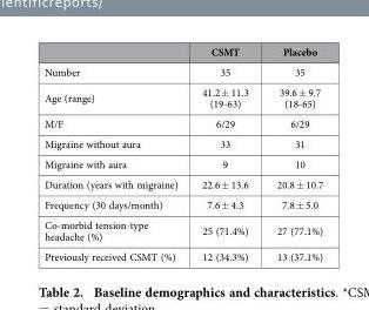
<table><thead><tr><td></td><td>CSMT</td><td>Placebo</td></tr></thead><tbody><tr><td>Number</td><td>35</td><td>35</td></tr><tr><td>Age (range)</td><td>41.2 ± 11.3 (19-63)</td><td>39.6 ± 9.7 (18-65)</td></tr><tr><td>M/F</td><td>6/29</td><td>6/29</td></tr><tr><td>Migraine without aura</td><td>33</td><td>31</td></tr><tr><td>Migraine with aura</td><td>9</td><td>10</td></tr><tr><td>Duration (years with migraine)</td><td>22.6 ± 13.6</td><td>20.8 ± 10.7</td></tr><tr><td>Frequency (30 days/month)</td><td>7.6 ± 4.3</td><td>7.8 ± 5.0</td></tr><tr><td>Co-morbid tension-type headache (%)</td><td>25 (71.4%)</td><td>27 (77.1%)</td></tr><tr><td>Previously received CSMT (%)</td><td>12 (34.3%)</td><td>13 (37.1%)</td></tr></tbody></table>